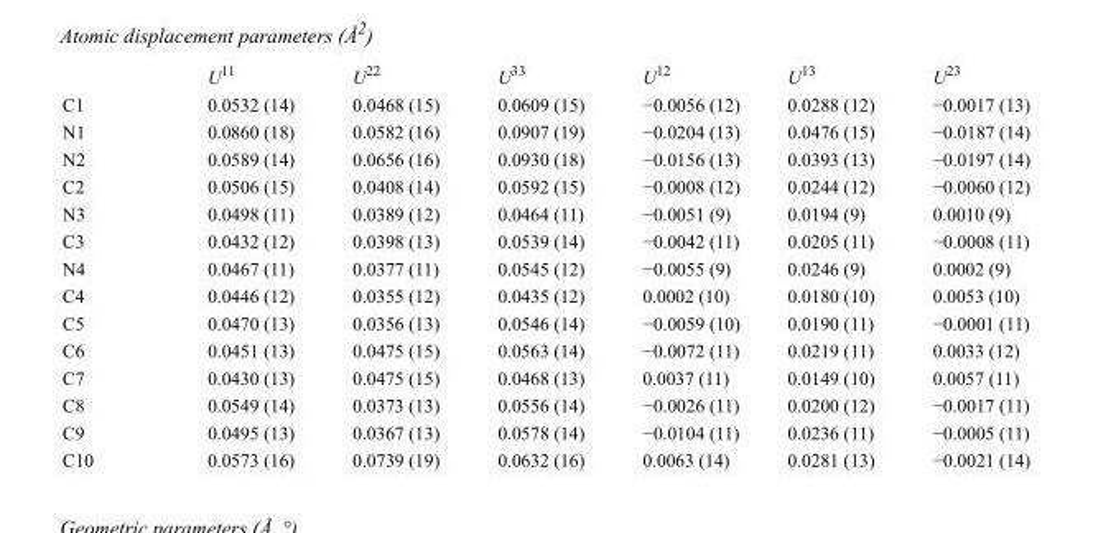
<table><thead><tr><td></td><td>U<sup>11</sup></td><td>U<sup>22</sup></td><td>U<sup>33</sup></td><td>U<sup>12</sup></td><td>U<sup>13</sup></td><td>U<sup>23</sup></td></tr></thead><tbody><tr><td>C1</td><td>0.0532 (14)</td><td>0.0468 (15)</td><td>0.0609 (15)</td><td>−0.0056 (12)</td><td>0.0288 (12)</td><td>−0.0017 (13)</td></tr><tr><td>N1</td><td>0.0860 (18)</td><td>0.0582 (16)</td><td>0.0907 (19)</td><td>−0.0204 (13)</td><td>0.0476 (15)</td><td>−0.0187 (14)</td></tr><tr><td>N2</td><td>0.0589 (14)</td><td>0.0656 (16)</td><td>0.0930 (18)</td><td>−0.0156 (13)</td><td>0.0393 (13)</td><td>−0.0197 (14)</td></tr><tr><td>C2</td><td>0.0506 (15)</td><td>0.0408 (14)</td><td>0.0592 (15)</td><td>−0.0008 (12)</td><td>0.0244 (12)</td><td>−0.0060 (12)</td></tr><tr><td>N3</td><td>0.0498 (11)</td><td>0.0389 (12)</td><td>0.0464 (11)</td><td>−0.0051 (9)</td><td>0.0194 (9)</td><td>0.0010 (9)</td></tr><tr><td>C3</td><td>0.0432 (12)</td><td>0.0398 (13)</td><td>0.0539 (14)</td><td>−0.0042 (11)</td><td>0.0205 (11)</td><td>−0.0008 (11)</td></tr><tr><td>N4</td><td>0.0467 (11)</td><td>0.0377 (11)</td><td>0.0545 (12)</td><td>−0.0055 (9)</td><td>0.0246 (9)</td><td>0.0002 (9)</td></tr><tr><td>C4</td><td>0.0446 (12)</td><td>0.0355 (12)</td><td>0.0435 (12)</td><td>0.0002 (10)</td><td>0.0180 (10)</td><td>0.0053 (10)</td></tr><tr><td>C5</td><td>0.0470 (13)</td><td>0.0356 (13)</td><td>0.0546 (14)</td><td>−0.0059 (10)</td><td>0.0190 (11)</td><td>−0.0001 (11)</td></tr><tr><td>C6</td><td>0.0451 (13)</td><td>0.0475 (15)</td><td>0.0563 (14)</td><td>−0.0072 (11)</td><td>0.0219 (11)</td><td>0.0033 (12)</td></tr><tr><td>C7</td><td>0.0430 (13)</td><td>0.0475 (15)</td><td>0.0468 (13)</td><td>0.0037 (11)</td><td>0.0149 (10)</td><td>0.0057 (11)</td></tr><tr><td>C8</td><td>0.0549 (14)</td><td>0.0373 (13)</td><td>0.0556 (14)</td><td>−0.0026 (11)</td><td>0.0200 (12)</td><td>−0.0017 (11)</td></tr><tr><td>C9</td><td>0.0495 (13)</td><td>0.0367 (13)</td><td>0.0578 (14)</td><td>−0.0104 (11)</td><td>0.0236 (11)</td><td>−0.0005 (11)</td></tr><tr><td>C10</td><td>0.0573 (16)</td><td>0.0739 (19)</td><td>0.0632 (16)</td><td>0.0063 (14)</td><td>0.0281 (13)</td><td>−0.0021 (14)</td></tr></tbody></table>